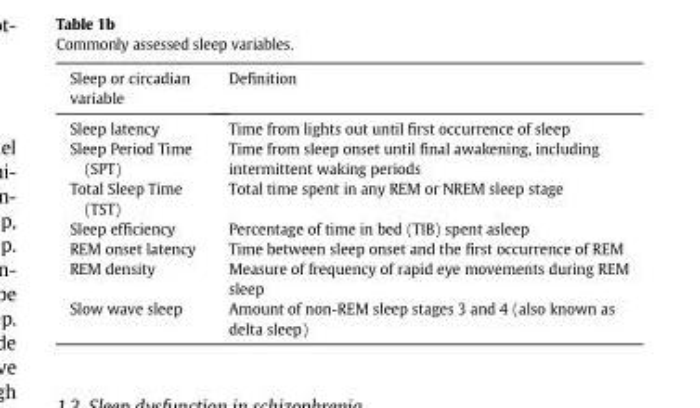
<table><thead><tr><td>Sleep or circadian variable</td><td>Definition</td></tr></thead><tbody><tr><td>Sleep latency</td><td>Time from lights out until first occurrence of sleep</td></tr><tr><td>Sleep Period Time (SPT)</td><td>Time from sleep onset until final awakening, including intermittent waking periods</td></tr><tr><td>Total Sleep Time (TST)</td><td>Total time spent in any REM or NREM sleep stage</td></tr><tr><td>Sleep efficiency</td><td>Percentage of time in bed (TIB) spent asleep</td></tr><tr><td>REM onset latency</td><td>Time between sleep onset and the first occurrence of REM</td></tr><tr><td>REM density</td><td>Measure of frequency of rapid eye movements during REM sleep</td></tr><tr><td>Slow wave sleep</td><td>Amount of non-REM sleep stages 3 and 4 (also known as delta sleep)</td></tr></tbody></table>